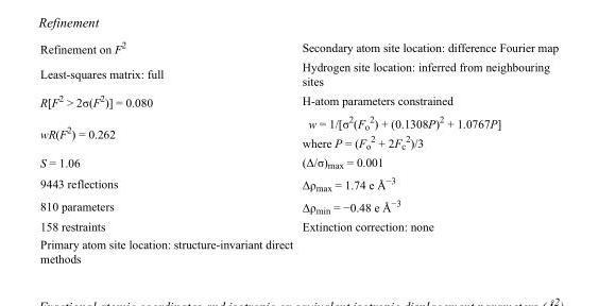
<table><tbody><tr><td>Refinement on F<sup>2</sup></td><td>Secondary atom site location: difference Fourier map</td></tr><tr><td>Least-squares matrix: full</td><td>Hydrogen site location: inferred from neighbouring sites</td></tr><tr><td>R[F<sup>2</sup> &gt; 2σ(F<sup>2</sup>)] = 0.080</td><td>H-atom parameters constrained</td></tr><tr><td>wR(F<sup>2</sup>) = 0.262</td><td>w = 1/[σ<sup>2</sup>(F<sub>o</sub> <sup>2</sup>) + (0.1308P)<sup>2</sup> + 1.0767P] where P = (F<sub>o</sub> <sup>2</sup> + 2F<sub>c</sub> <sup>2</sup>)/3</td></tr><tr><td>S = 1.06</td><td>(Δ/σ)<sub>max</sub> = 0.001</td></tr><tr><td>9443 reflections</td><td>Δρ<sub>max</sub> = 1.74 e Å<sup>−3</sup></td></tr><tr><td>810 parameters</td><td>Δρ<sub>min</sub> = −0.48 e Å<sup>−3</sup></td></tr><tr><td>158 restraints</td><td>Extinction correction: none</td></tr><tr><td>Primary atom site location: structure-invariant direct methods</td><td></td></tr></tbody></table>